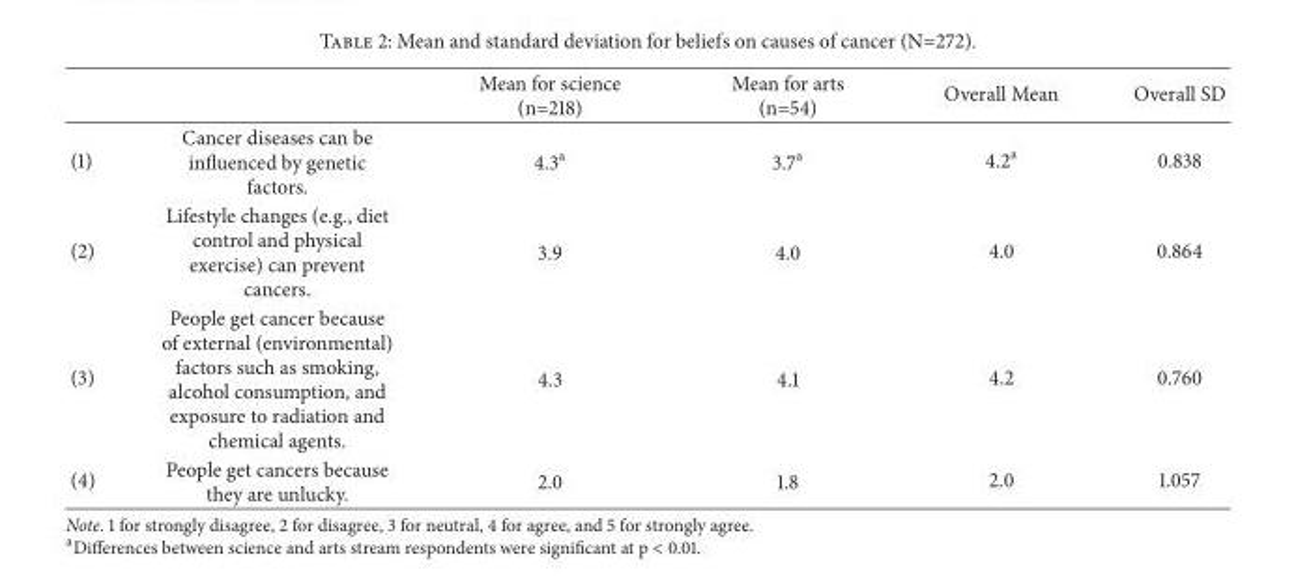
<table><thead><tr><td></td><td></td><td>Mean for science (n=218)</td><td>Mean for arts (n=54)</td><td>Overall Mean</td><td>Overall SD</td></tr></thead><tbody><tr><td>(1)</td><td>Cancer diseases can be influenced by genetic factors.</td><td>4.3<sup>a</sup></td><td>3.7<sup>a</sup></td><td>4.2<sup>a</sup></td><td>0.838</td></tr><tr><td>(2)</td><td>Lifestyle changes (e.g., diet control and physical exercise) can prevent cancers.</td><td>3.9</td><td>4.0</td><td>4.0</td><td>0.864</td></tr><tr><td>(3)</td><td>People get cancer because of external (environmental) factors such as smoking, alcohol consumption, and exposure to radiation and chemical agents.</td><td>4.3</td><td>4.1</td><td>4.2</td><td>0.760</td></tr><tr><td>(4)</td><td>People get cancers because they are unlucky.</td><td>2.0</td><td>1.8</td><td>2.0</td><td>1.057</td></tr></tbody></table>